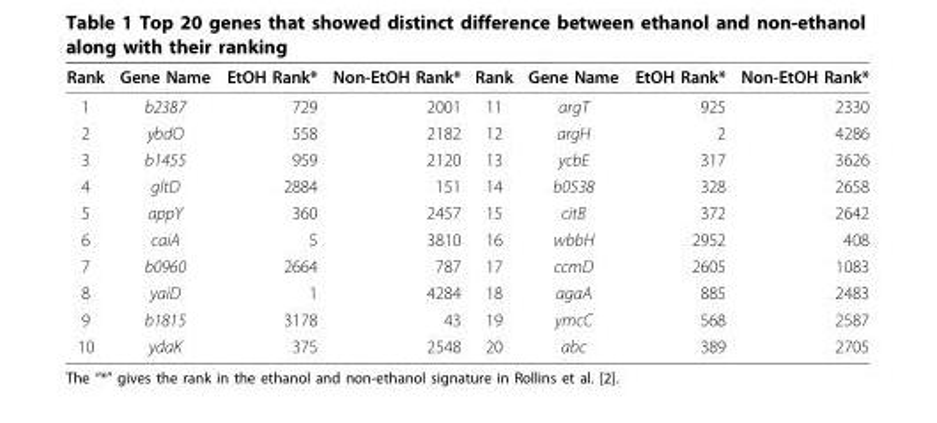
<table><thead><tr><td>Rank</td><td>Gene Name</td><td>EtOH Rank*</td><td>Non-EtOH Rank*</td><td>Rank</td><td>Gene Name</td><td>EtOH Rank*</td><td>Non-EtOH Rank*</td></tr></thead><tbody><tr><td>1</td><td>b2387</td><td>729</td><td>2001</td><td>11</td><td>argT</td><td>925</td><td>2330</td></tr><tr><td>2</td><td>ybdO</td><td>558</td><td>2182</td><td>12</td><td>argH</td><td>2</td><td>4286</td></tr><tr><td>3</td><td>b1455</td><td>959</td><td>2120</td><td>13</td><td>ycbE</td><td>317</td><td>3626</td></tr><tr><td>4</td><td>gltD</td><td>2884</td><td>151</td><td>14</td><td>b0538</td><td>328</td><td>2658</td></tr><tr><td>5</td><td>appY</td><td>360</td><td>2457</td><td>15</td><td>citB</td><td>372</td><td>2642</td></tr><tr><td>6</td><td>caiA</td><td>5</td><td>3810</td><td>16</td><td>wbbH</td><td>2952</td><td>408</td></tr><tr><td>7</td><td>b0960</td><td>2664</td><td>787</td><td>17</td><td>ccmD</td><td>2605</td><td>1083</td></tr><tr><td>8</td><td>yaiD</td><td>1</td><td>4284</td><td>18</td><td>agaA</td><td>885</td><td>2483</td></tr><tr><td>9</td><td>b1815</td><td>3178</td><td>43</td><td>19</td><td>ymcC</td><td>568</td><td>2587</td></tr><tr><td>10</td><td>ydaK</td><td>375</td><td>2548</td><td>20</td><td>abc</td><td>389</td><td>2705</td></tr></tbody></table>